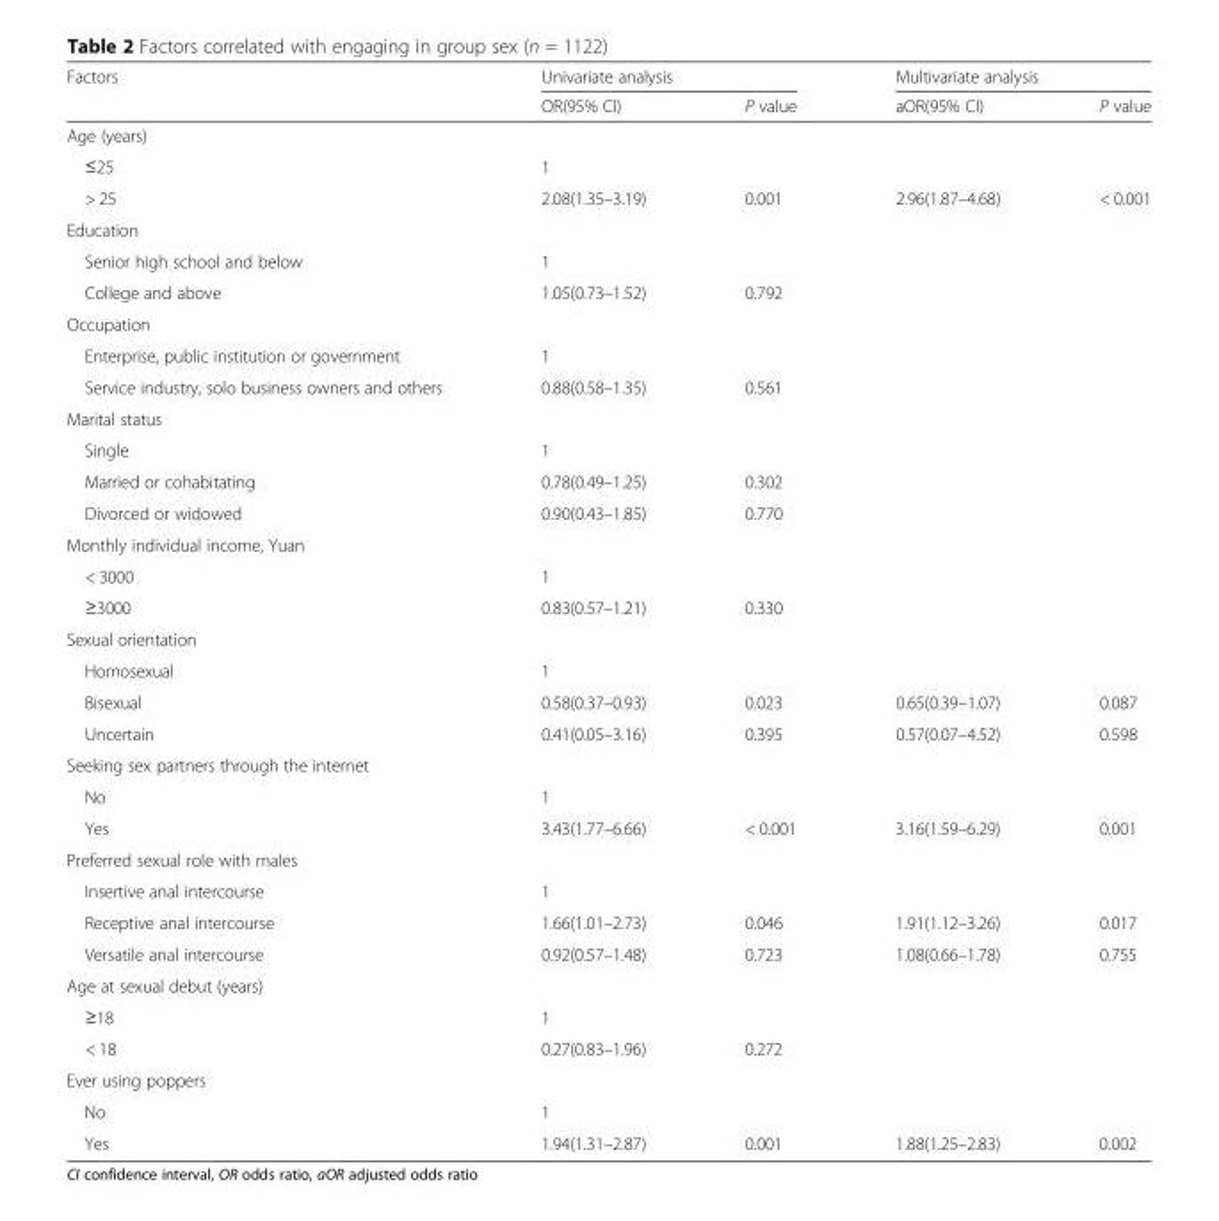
<table><thead><tr><td rowspan="2">Factors</td><td colspan="2">Univariate analysis</td><td colspan="2">Multivariate analysis</td></tr><tr><td>OR(95% CI)</td><td>P value</td><td>aOR(95% CI)</td><td>P value</td></tr></thead><tbody><tr><td colspan="5">Age (years)</td></tr><tr><td>≤25</td><td>1</td><td></td><td></td><td></td></tr><tr><td>&gt; 25</td><td>2.08(1.35–3.19)</td><td>0.001</td><td>2.96(1.87–4.68)</td><td>&lt; 0.001</td></tr><tr><td colspan="5">Education</td></tr><tr><td>Senior high school and below</td><td>1</td><td></td><td></td><td></td></tr><tr><td>College and above</td><td>1.05(0.73–1.52)</td><td>0.792</td><td></td><td></td></tr><tr><td colspan="5">Occupation</td></tr><tr><td>Enterprise, public institution or government</td><td>1</td><td></td><td></td><td></td></tr><tr><td>Service industry, solo business owners and others</td><td>0.88(0.58–1.35)</td><td>0.561</td><td></td><td></td></tr><tr><td colspan="5">Marital status</td></tr><tr><td>Single</td><td>1</td><td></td><td></td><td></td></tr><tr><td>Married or cohabitating</td><td>0.78(0.49–1.25)</td><td>0.302</td><td></td><td></td></tr><tr><td>Divorced or widowed</td><td>0.90(0.43–1.85)</td><td>0.770</td><td></td><td></td></tr><tr><td colspan="5">Monthly individual income, Yuan</td></tr><tr><td>&lt; 3000</td><td>1</td><td></td><td></td><td></td></tr><tr><td>≥3000</td><td>0.83(0.57–1.21)</td><td>0.330</td><td></td><td></td></tr><tr><td colspan="5">Sexual orientation</td></tr><tr><td>Homosexual</td><td>1</td><td></td><td></td><td></td></tr><tr><td>Bisexual</td><td>0.58(0.37–0.93)</td><td>0.023</td><td>0.65(0.39–1.07)</td><td>0.087</td></tr><tr><td>Uncertain</td><td>0.41(0.05–3.16)</td><td>0.395</td><td>0.57(0.07–4.52)</td><td>0.598</td></tr><tr><td colspan="5">Seeking sex partners through the internet</td></tr><tr><td>No</td><td>1</td><td></td><td></td><td></td></tr><tr><td>Yes</td><td>3.43(1.77–6.66)</td><td>&lt; 0.001</td><td>3.16(1.59–6.29)</td><td>0.001</td></tr><tr><td colspan="5">Preferred sexual role with males</td></tr><tr><td>Insertive anal intercourse</td><td>1</td><td></td><td></td><td></td></tr><tr><td>Receptive anal intercourse</td><td>1.66(1.01–2.73)</td><td>0.046</td><td>1.91(1.12–3.26)</td><td>0.017</td></tr><tr><td>Versatile anal intercourse</td><td>0.92(0.57–1.48)</td><td>0.723</td><td>1.08(0.66–1.78)</td><td>0.755</td></tr><tr><td colspan="5">Age at sexual debut (years)</td></tr><tr><td>≥18</td><td>1</td><td></td><td></td><td></td></tr><tr><td>&lt; 18</td><td>0.27(0.83–1.96)</td><td>0.272</td><td></td><td></td></tr><tr><td colspan="5">Ever using poppers</td></tr><tr><td>No</td><td>1</td><td></td><td></td><td></td></tr><tr><td>Yes</td><td>1.94(1.31–2.87)</td><td>0.001</td><td>1.88(1.25–2.83)</td><td>0.002</td></tr></tbody></table>